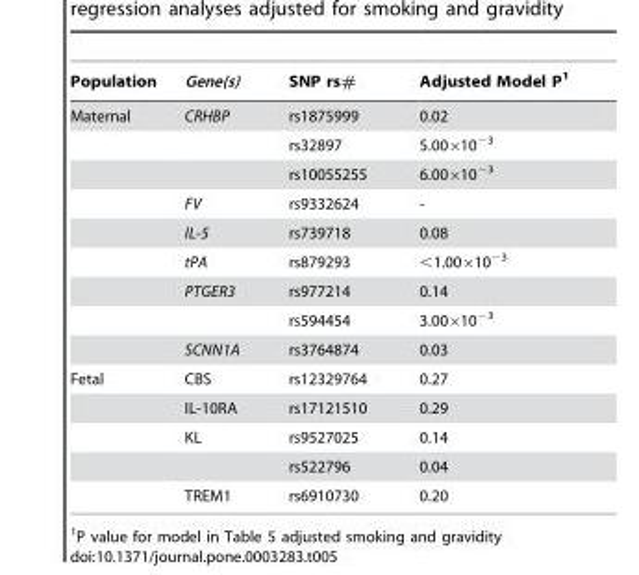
<table><thead><tr><td>Population</td><td>Gene(s)</td><td>SNP rs#</td><td>Adjusted Model P<sup>1</sup></td></tr></thead><tbody><tr><td rowspan="9">Maternal</td><td>CRHBP</td><td>rs1875999</td><td>0.02</td></tr><tr><td></td><td>rs32897</td><td>5.00×10<sup>−3</sup></td></tr><tr><td></td><td>rs10055255</td><td>6.00×10<sup>−3</sup></td></tr><tr><td>FV</td><td>rs9332624</td><td>-</td></tr><tr><td>IL-5</td><td>rs739718</td><td>0.08</td></tr><tr><td>tPA</td><td>rs879293</td><td>&lt;1.00×10<sup>−3</sup></td></tr><tr><td>PTGER3</td><td>rs977214</td><td>0.14</td></tr><tr><td></td><td>rs594454</td><td>3.00×10<sup>−3</sup></td></tr><tr><td>SCNN1A</td><td>rs3764874</td><td>0.03</td></tr><tr><td rowspan="5">Fetal</td><td>CBS</td><td>rs12329764</td><td>0.27</td></tr><tr><td>IL-10RA</td><td>rs17121510</td><td>0.29</td></tr><tr><td>KL</td><td>rs9527025</td><td>0.14</td></tr><tr><td></td><td>rs522796</td><td>0.04</td></tr><tr><td>TREM1</td><td>rs6910730</td><td>0.20</td></tr></tbody></table>